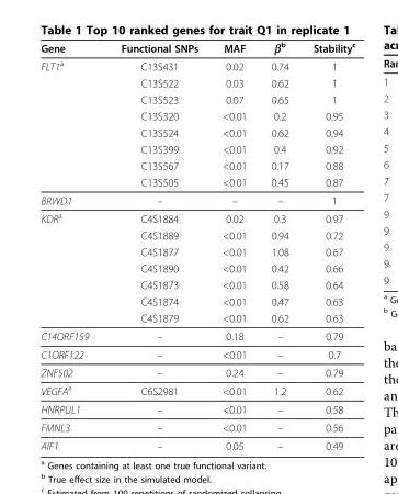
<table><thead><tr><td>Gene</td><td>Functional SNPs</td><td>MAF</td><td>β<sup>b</sup></td><td>Stability<sup>c</sup></td></tr></thead><tbody><tr><td rowspan="8">FLT1<sup>a</sup></td><td>C13S431</td><td>0.02</td><td>0.74</td><td>1</td></tr><tr><td>C13S522</td><td>0.03</td><td>0.62</td><td>1</td></tr><tr><td>C13S523</td><td>0.07</td><td>0.65</td><td>1</td></tr><tr><td>C13S320</td><td>&lt;0.01</td><td>0.2</td><td>0.95</td></tr><tr><td>C13S524</td><td>&lt;0.01</td><td>0.62</td><td>0.94</td></tr><tr><td>C13S399</td><td>&lt;0.01</td><td>0.4</td><td>0.92</td></tr><tr><td>C13S567</td><td>&lt;0.01</td><td>0.17</td><td>0.88</td></tr><tr><td>C13S505</td><td>&lt;0.01</td><td>0.45</td><td>0.87</td></tr><tr><td>BRWD1</td><td>–</td><td>–</td><td>–</td><td>1</td></tr><tr><td rowspan="7">KDR<sup>a</sup></td><td>C4S1884</td><td>0.02</td><td>0.3</td><td>0.97</td></tr><tr><td>C4S1889</td><td>&lt;0.01</td><td>0.94</td><td>0.72</td></tr><tr><td>C4S1877</td><td>&lt;0.01</td><td>1.08</td><td>0.67</td></tr><tr><td>C4S1890</td><td>&lt;0.01</td><td>0.42</td><td>0.66</td></tr><tr><td>C4S1873</td><td>&lt;0.01</td><td>0.58</td><td>0.64</td></tr><tr><td>C4S1874</td><td>&lt;0.01</td><td>0.47</td><td>0.63</td></tr><tr><td>C4S1879</td><td>&lt;0.01</td><td>0.62</td><td>0.63</td></tr><tr><td>C14ORF159</td><td>–</td><td>0.18</td><td>–</td><td>0.79</td></tr><tr><td>C1ORF122</td><td>–</td><td>&lt;0.01</td><td>–</td><td>0.7</td></tr><tr><td>ZNF502</td><td>–</td><td>0.24</td><td>–</td><td>0.79</td></tr><tr><td>VEGFA<sup>a</sup></td><td>C6S2981</td><td>&lt;0.01</td><td>1.2</td><td>0.62</td></tr><tr><td>HNRPUL1</td><td>–</td><td>&lt;0.01</td><td>–</td><td>0.58</td></tr><tr><td>FMNL3</td><td>–</td><td>&lt;0.01</td><td>–</td><td>0.56</td></tr><tr><td>AIF1</td><td>–</td><td>0.05</td><td>–</td><td>0.49</td></tr></tbody></table>